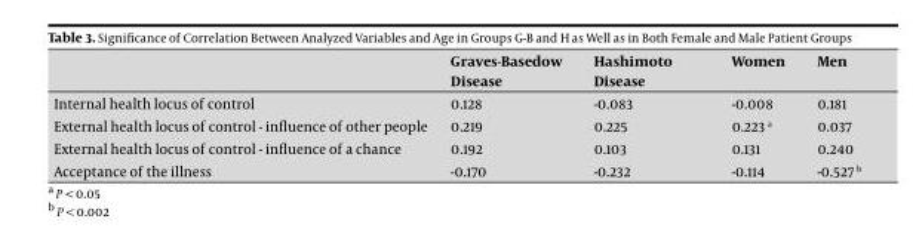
<table><thead><tr><td></td><td>Graves-Basedow Disease</td><td>Hashimoto Disease</td><td>Women</td><td>Men</td></tr></thead><tbody><tr><td>Internal health locus of control</td><td>0.128</td><td>-0.083</td><td>-0.008</td><td>0.181</td></tr><tr><td>External health locus of control - influence of other people</td><td>0.219</td><td>0.225</td><td>0.223 a</td><td>0.037</td></tr><tr><td>External health locus of control - influence of a chance</td><td>0.192</td><td>0.103</td><td>0.131</td><td>0.240</td></tr><tr><td>Acceptance of the illness</td><td>-0.170</td><td>-0.232</td><td>-0.114</td><td>-0.527 b</td></tr></tbody></table>